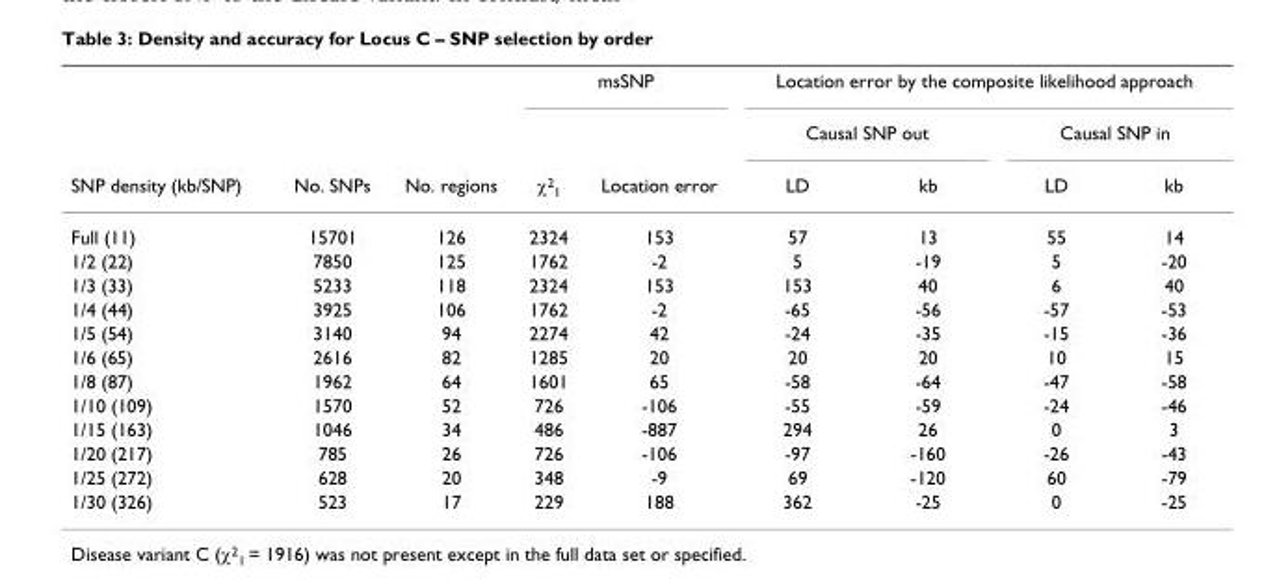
<table><thead><tr><td rowspan="3">SNP density (kb/SNP)</td><td rowspan="3">No. SNPs</td><td rowspan="3">No. regions</td><td colspan="2">msSNP</td><td colspan="4">Location error by the composite likelihood approach</td></tr><tr><td rowspan="2">χ<sup>2</sup><sub>1</sub></td><td rowspan="2">Location error</td><td colspan="2">Causal SNP out</td><td colspan="2">Causal SNP in</td></tr><tr><td>LD</td><td>kb</td><td>LD</td><td>kb</td></tr></thead><tbody><tr><td>Full (11)</td><td>15701</td><td>126</td><td>2324</td><td>153</td><td>57</td><td>13</td><td>55</td><td>14</td></tr><tr><td>1/2 (22)</td><td>7850</td><td>125</td><td>1762</td><td>-2</td><td>5</td><td>-19</td><td>5</td><td>-20</td></tr><tr><td>1/3 (33)</td><td>5233</td><td>118</td><td>2324</td><td>153</td><td>153</td><td>40</td><td>6</td><td>40</td></tr><tr><td>1/4 (44)</td><td>3925</td><td>106</td><td>1762</td><td>-2</td><td>-65</td><td>-56</td><td>-57</td><td>-53</td></tr><tr><td>1/5 (54)</td><td>3140</td><td>94</td><td>2274</td><td>42</td><td>-24</td><td>-35</td><td>-15</td><td>-36</td></tr><tr><td>1/6 (65)</td><td>2616</td><td>82</td><td>1285</td><td>20</td><td>20</td><td>20</td><td>10</td><td>15</td></tr><tr><td>1/8 (87)</td><td>1962</td><td>64</td><td>1601</td><td>65</td><td>-58</td><td>-64</td><td>-47</td><td>-58</td></tr><tr><td>1/10 (109)</td><td>1570</td><td>52</td><td>726</td><td>-106</td><td>-55</td><td>-59</td><td>-24</td><td>-46</td></tr><tr><td>1/15 (163)</td><td>1046</td><td>34</td><td>486</td><td>-887</td><td>294</td><td>26</td><td>0</td><td>3</td></tr><tr><td>1/20 (217)</td><td>785</td><td>26</td><td>726</td><td>-106</td><td>-97</td><td>-160</td><td>-26</td><td>-43</td></tr><tr><td>1/25 (272)</td><td>628</td><td>20</td><td>348</td><td>-9</td><td>69</td><td>-120</td><td>60</td><td>-79</td></tr><tr><td>1/30 (326)</td><td>523</td><td>17</td><td>229</td><td>188</td><td>362</td><td>-25</td><td>0</td><td>-25</td></tr></tbody></table>